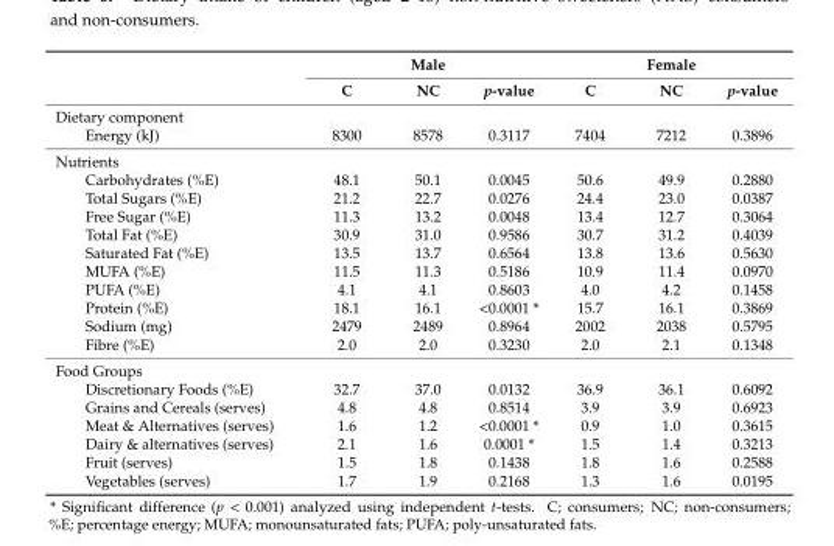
<table><thead><tr><td rowspan="2"></td><td colspan="3">Male</td><td colspan="3">Female</td></tr><tr><td>C</td><td>NC</td><td>p-value</td><td>C</td><td>NC</td><td>p-value</td></tr></thead><tbody><tr><td colspan="7">Dietary component</td></tr><tr><td>Energy (kJ)</td><td>8300</td><td>8578</td><td>0.3117</td><td>7404</td><td>7212</td><td>0.3896</td></tr><tr><td colspan="7">Nutrients</td></tr><tr><td>Carbohydrates (%E)</td><td>48.1</td><td>50.1</td><td>0.0045</td><td>50.6</td><td>49.9</td><td>0.2880</td></tr><tr><td>Total Sugars (%E)</td><td>21.2</td><td>22.7</td><td>0.0276</td><td>24.4</td><td>23.0</td><td>0.0387</td></tr><tr><td>Free Sugar (%E)</td><td>11.3</td><td>13.2</td><td>0.0048</td><td>13.4</td><td>12.7</td><td>0.3064</td></tr><tr><td>Total Fat (%E)</td><td>30.9</td><td>31.0</td><td>0.9586</td><td>30.7</td><td>31.2</td><td>0.4039</td></tr><tr><td>Saturated Fat (%E)</td><td>13.5</td><td>13.7</td><td>0.6564</td><td>13.8</td><td>13.6</td><td>0.5630</td></tr><tr><td>MUFA (%E)</td><td>11.5</td><td>11.3</td><td>0.5186</td><td>10.9</td><td>11.4</td><td>0.0970</td></tr><tr><td>PUFA (%E)</td><td>4.1</td><td>4.1</td><td>0.8603</td><td>4.0</td><td>4.2</td><td>0.1458</td></tr><tr><td>Protein (%E)</td><td>18.1</td><td>16.1</td><td>&lt;0.0001 *</td><td>15.7</td><td>16.1</td><td>0.3869</td></tr><tr><td>Sodium (mg)</td><td>2479</td><td>2489</td><td>0.8964</td><td>2002</td><td>2038</td><td>0.5795</td></tr><tr><td>Fibre (%E)</td><td>2.0</td><td>2.0</td><td>0.3230</td><td>2.0</td><td>2.1</td><td>0.1348</td></tr><tr><td colspan="7">Food Groups</td></tr><tr><td>Discretionary Foods (%E)</td><td>32.7</td><td>37.0</td><td>0.0132</td><td>36.9</td><td>36.1</td><td>0.6092</td></tr><tr><td>Grains and Cereals (serves)</td><td>4.8</td><td>4.8</td><td>0.8514</td><td>3.9</td><td>3.9</td><td>0.6923</td></tr><tr><td>Meat &amp; Alternatives (serves)</td><td>1.6</td><td>1.2</td><td>&lt;0.0001 *</td><td>0.9</td><td>1.0</td><td>0.3615</td></tr><tr><td>Dairy &amp; alternatives (serves)</td><td>2.1</td><td>1.6</td><td>0.0001 *</td><td>1.5</td><td>1.4</td><td>0.3213</td></tr><tr><td>Fruit (serves)</td><td>1.5</td><td>1.8</td><td>0.1438</td><td>1.8</td><td>1.6</td><td>0.2588</td></tr><tr><td>Vegetables (serves)</td><td>1.7</td><td>1.9</td><td>0.2168</td><td>1.3</td><td>1.6</td><td>0.0195</td></tr></tbody></table>